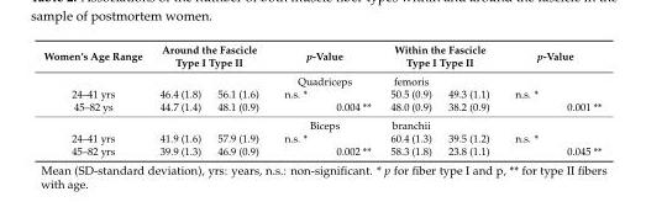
<table><thead><tr><td rowspan="3">Women’s Age Range 24–41 yrs</td><td colspan="2">Around the Fascicle Type I Type II</td><td rowspan="2" colspan="2">p-Value Quadriceps</td><td colspan="2">Within the Fascicle Type I Type II</td><td rowspan="2" colspan="2">p-Value</td></tr><tr><td rowspan="2">46.4 (1.8)</td><td rowspan="2">56.1 (1.6)</td><td rowspan="2">femoris 50.5 (0.9)</td><td rowspan="2">49.3 (1.1)</td></tr><tr><td>n.s. *</td><td></td><td>n.s. *</td><td></td></tr></thead><tbody><tr><td rowspan="2">45–82 ys</td><td>44.7 (1.4)</td><td>48.1 (0.9)</td><td></td><td>0.004 **</td><td>48.0 (0.9)</td><td>38.2 (0.9)</td><td></td><td>0.001 **</td></tr><tr><td></td><td></td><td colspan="2">Biceps</td><td>branchii</td><td></td><td colspan="2"></td></tr><tr><td>24–41 yrs</td><td>41.9 (1.6)</td><td>57.9 (1.9)</td><td>n.s. *</td><td></td><td>60.4 (1.3)</td><td>39.5 (1.2)</td><td>n.s. *</td><td></td></tr><tr><td>45–82 yrs</td><td>39.9 (1.3)</td><td>46.9 (0.9)</td><td></td><td>0.002 **</td><td>58.3 (1.8)</td><td>23.8 (1.1)</td><td></td><td>0.045 **</td></tr></tbody></table>